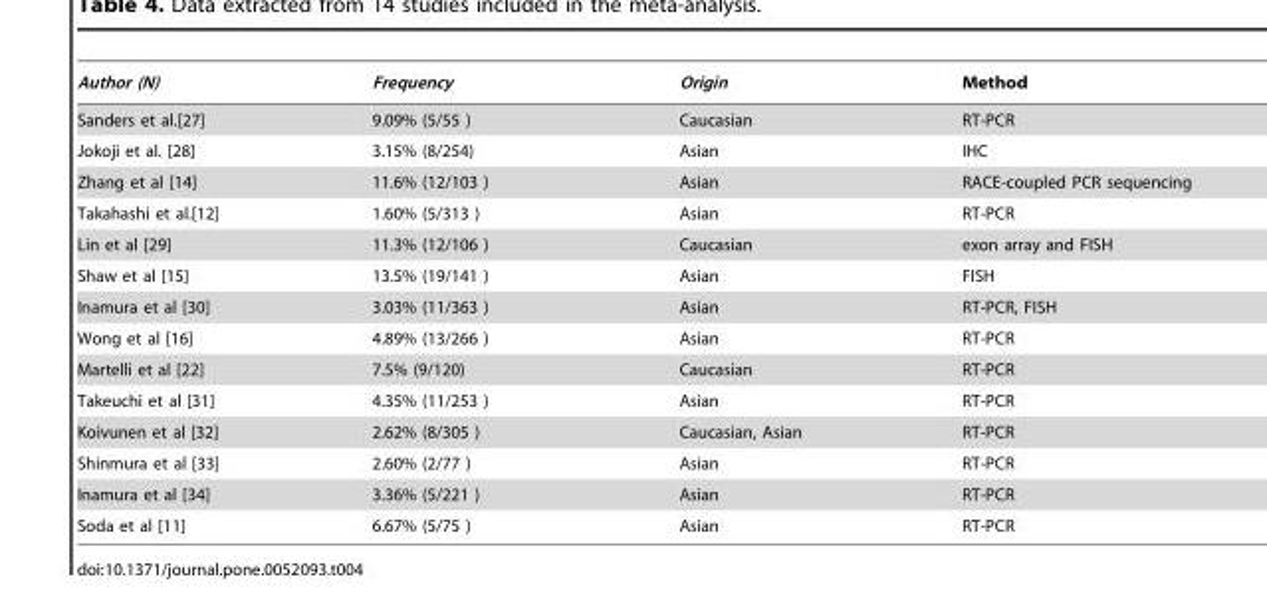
<table><thead><tr><td>Author (N)</td><td>Frequency</td><td>Origin</td><td>Method</td></tr></thead><tbody><tr><td>Sanders et al.[27]</td><td>9.09% (5/55 )</td><td>Caucasian</td><td>RT-PCR</td></tr><tr><td>Jokoji et al. [28]</td><td>3.15% (8/254)</td><td>Asian</td><td>IHC</td></tr><tr><td>Zhang et al [14]</td><td>11.6% (12/103 )</td><td>Asian</td><td>RACE-coupled PCR sequencing</td></tr><tr><td>Takahashi et al.[12]</td><td>1.60% (5/313 )</td><td>Asian</td><td>RT-PCR</td></tr><tr><td>Lin et al [29]</td><td>11.3% (12/106 )</td><td>Caucasian</td><td>exon array and FISH</td></tr><tr><td>Shaw et al [15]</td><td>13.5% (19/141 )</td><td>Asian</td><td>FISH</td></tr><tr><td>Inamura et al [30]</td><td>3.03% (11/363 )</td><td>Asian</td><td>RT-PCR, FISH</td></tr><tr><td>Wong et al [16]</td><td>4.89% (13/266 )</td><td>Asian</td><td>RT-PCR</td></tr><tr><td>Martelli et al [22]</td><td>7.5% (9/120)</td><td>Caucasian</td><td>RT-PCR</td></tr><tr><td>Takeuchi et al [31]</td><td>4.35% (11/253 )</td><td>Asian</td><td>RT-PCR</td></tr><tr><td>Koivunen et al [32]</td><td>2.62% (8/305 )</td><td>Caucasian, Asian</td><td>RT-PCR</td></tr><tr><td>Shinmura et al [33]</td><td>2.60% (2/77 )</td><td>Asian</td><td>RT-PCR</td></tr><tr><td>Inamura et al [34]</td><td>3.36% (5/221 )</td><td>Asian</td><td>RT-PCR</td></tr><tr><td>Soda et al [11]</td><td>6.67% (5/75 )</td><td>Asian</td><td>RT-PCR</td></tr></tbody></table>